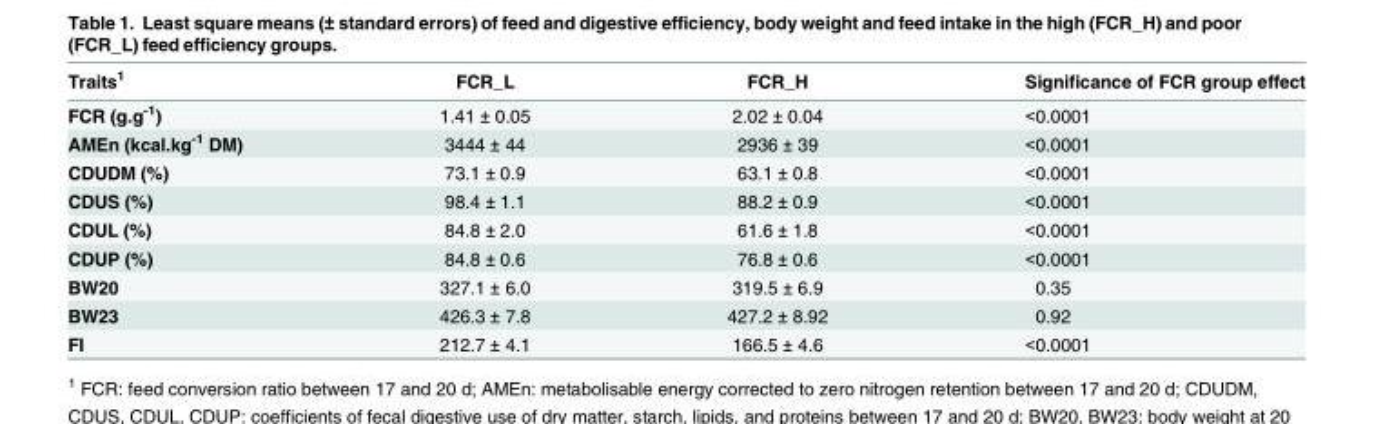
<table><thead><tr><td>Traits<sup>1</sup></td><td>FCR_L</td><td>FCR_H</td><td>Significance of FCR group effect</td></tr></thead><tbody><tr><td>FCR (g.g<sup>-1</sup>)</td><td>1.41 ± 0.05</td><td>2.02 ± 0.04</td><td>&lt;0.0001</td></tr><tr><td>AMEn (kcal.kg<sup>-1</sup> DM)</td><td>3444 ± 44</td><td>2936 ± 39</td><td>&lt;0.0001</td></tr><tr><td>CDUDM (%)</td><td>73.1 ± 0.9</td><td>63.1 ± 0.8</td><td>&lt;0.0001</td></tr><tr><td>CDUS (%)</td><td>98.4 ± 1.1</td><td>88.2 ± 0.9</td><td>&lt;0.0001</td></tr><tr><td>CDUL (%)</td><td>84.8 ± 2.0</td><td>61.6 ± 1.8</td><td>&lt;0.0001</td></tr><tr><td>CDUP (%)</td><td>84.8 ± 0.6</td><td>76.8 ± 0.6</td><td>&lt;0.0001</td></tr><tr><td>BW20</td><td>327.1 ± 6.0</td><td>319.5 ± 6.9</td><td>0.35</td></tr><tr><td>BW23</td><td>426.3 ± 7.8</td><td>427.2 ± 8.92</td><td>0.92</td></tr><tr><td>FI</td><td>212.7 ± 4.1</td><td>166.5 ± 4.6</td><td>&lt;0.0001</td></tr></tbody></table>